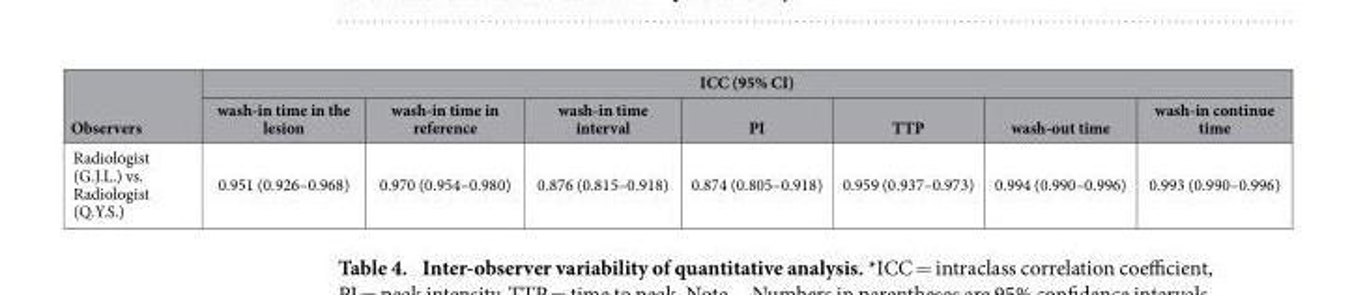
<table><thead><tr><td rowspan="2">Observers</td><td colspan="7">ICC (95% CI)</td></tr><tr><td>wash-in time in the lesion</td><td>wash-in time in reference</td><td>wash-in time interval</td><td>PI</td><td>TTP</td><td>wash-out time</td><td>wash-in continue time</td></tr></thead><tbody><tr><td>Radiologist (G.J.L.) vs. Radiologist (Q.Y.S.)</td><td>0.951 (0.926–0.968)</td><td>0.970 (0.954–0.980)</td><td>0.876 (0.815–0.918)</td><td>0.874 (0.805–0.918)</td><td>0.959 (0.937–0.973)</td><td>0.994 (0.990–0.996)</td><td>0.993 (0.990–0.996)</td></tr></tbody></table>